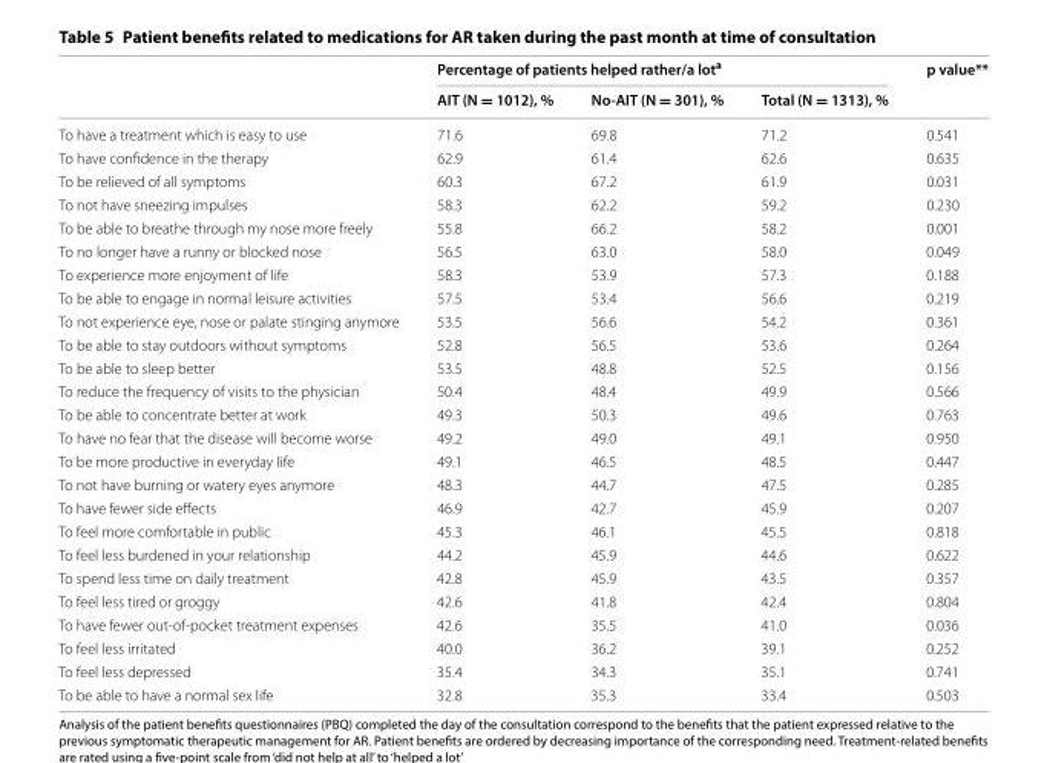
<table><thead><tr><td rowspan="2"></td><td colspan="3">Percentage of patients helped rather/a lot<sup>a</sup></td><td rowspan="2">p value**</td></tr><tr><td>AIT (N = 1012), %</td><td>No-AIT (N = 301), %</td><td>Total (N = 1313), %</td></tr></thead><tbody><tr><td>To have a treatment which is easy to use</td><td>71.6</td><td>69.8</td><td>71.2</td><td>0.541</td></tr><tr><td>To have confidence in the therapy</td><td>62.9</td><td>61.4</td><td>62.6</td><td>0.635</td></tr><tr><td>To be relieved of all symptoms</td><td>60.3</td><td>67.2</td><td>61.9</td><td>0.031</td></tr><tr><td>To not have sneezing impulses</td><td>58.3</td><td>62.2</td><td>59.2</td><td>0.230</td></tr><tr><td>To be able to breathe through my nose more freely</td><td>55.8</td><td>66.2</td><td>58.2</td><td>0.001</td></tr><tr><td>To no longer have a runny or blocked nose</td><td>56.5</td><td>63.0</td><td>58.0</td><td>0.049</td></tr><tr><td>To experience more enjoyment of life</td><td>58.3</td><td>53.9</td><td>57.3</td><td>0.188</td></tr><tr><td>To be able to engage in normal leisure activities</td><td>57.5</td><td>53.4</td><td>56.6</td><td>0.219</td></tr><tr><td>To not experience eye, nose or palate stinging anymore</td><td>53.5</td><td>56.6</td><td>54.2</td><td>0.361</td></tr><tr><td>To be able to stay outdoors without symptoms</td><td>52.8</td><td>56.5</td><td>53.6</td><td>0.264</td></tr><tr><td>To be able to sleep better</td><td>53.5</td><td>48.8</td><td>52.5</td><td>0.156</td></tr><tr><td>To reduce the frequency of visits to the physician</td><td>50.4</td><td>48.4</td><td>49.9</td><td>0.566</td></tr><tr><td>To be able to concentrate better at work</td><td>49.3</td><td>50.3</td><td>49.6</td><td>0.763</td></tr><tr><td>To have no fear that the disease will become worse</td><td>49.2</td><td>49.0</td><td>49.1</td><td>0.950</td></tr><tr><td>To be more productive in everyday life</td><td>49.1</td><td>46.5</td><td>48.5</td><td>0.447</td></tr><tr><td>To not have burning or watery eyes anymore</td><td>48.3</td><td>44.7</td><td>47.5</td><td>0.285</td></tr><tr><td>To have fewer side effects</td><td>46.9</td><td>42.7</td><td>45.9</td><td>0.207</td></tr><tr><td>To feel more comfortable in public</td><td>45.3</td><td>46.1</td><td>45.5</td><td>0.818</td></tr><tr><td>To feel less burdened in your relationship</td><td>44.2</td><td>45.9</td><td>44.6</td><td>0.622</td></tr><tr><td>To spend less time on daily treatment</td><td>42.8</td><td>45.9</td><td>43.5</td><td>0.357</td></tr><tr><td>To feel less tired or groggy</td><td>42.6</td><td>41.8</td><td>42.4</td><td>0.804</td></tr><tr><td>To have fewer out‑of‑pocket treatment expenses</td><td>42.6</td><td>35.5</td><td>41.0</td><td>0.036</td></tr><tr><td>To feel less irritated</td><td>40.0</td><td>36.2</td><td>39.1</td><td>0.252</td></tr><tr><td>To feel less depressed</td><td>35.4</td><td>34.3</td><td>35.1</td><td>0.741</td></tr><tr><td>To be able to have a normal sex life</td><td>32.8</td><td>35.3</td><td>33.4</td><td>0.503</td></tr></tbody></table>